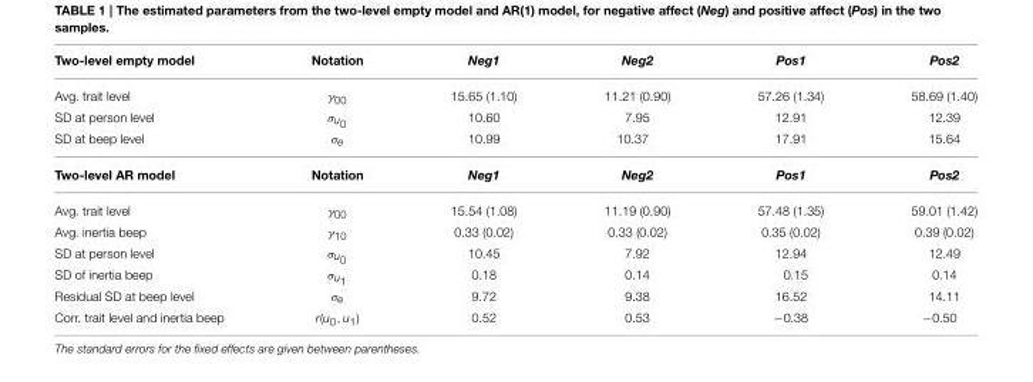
<table><thead><tr><td>Two-level empty model</td><td>Notation</td><td>Neg1</td><td>Neg2</td><td>Pos1</td><td>Pos2</td></tr></thead><tbody><tr><td>Avg. trait level</td><td>γ<sub>00</sub></td><td>15.65 (1.10)</td><td>11.21 (0.90)</td><td>57.26 (1.34)</td><td>58.69 (1.40)</td></tr><tr><td>SD at person level</td><td>σu0</td><td>10.60</td><td>7.95</td><td>12.91</td><td>12.39</td></tr><tr><td>SD at beep level</td><td>σ<sub>e</sub></td><td>10.99</td><td>10.37</td><td>17.91</td><td>15.64</td></tr><tr><td>Two-level AR model</td><td>Notation</td><td>Neg1</td><td>Neg2</td><td>Pos1</td><td>Pos2</td></tr><tr><td>Avg. trait level</td><td>γ<sub>00</sub></td><td>15.54 (1.08)</td><td>11.19 (0.90)</td><td>57.48 (1.35)</td><td>59.01 (1.42)</td></tr><tr><td>Avg. inertia beep</td><td>γ<sub>10</sub></td><td>0.33 (0.02)</td><td>0.33 (0.02)</td><td>0.35 (0.02)</td><td>0.39 (0.02)</td></tr><tr><td>SD at person level</td><td>σu0</td><td>10.45</td><td>7.92</td><td>12.94</td><td>12.49</td></tr><tr><td>SD of inertia beep</td><td>σu1</td><td>0.18</td><td>0.14</td><td>0.15</td><td>0.14</td></tr><tr><td>Residual SD at beep level</td><td>σ<sub>e</sub></td><td>9.72</td><td>9.38</td><td>16.52</td><td>14.11</td></tr><tr><td>Corr. trait level and inertia beep</td><td>r(u<sub>0</sub>, u<sub>1</sub>)</td><td>0.52</td><td>0.53</td><td>−0.38</td><td>−0.50</td></tr></tbody></table>